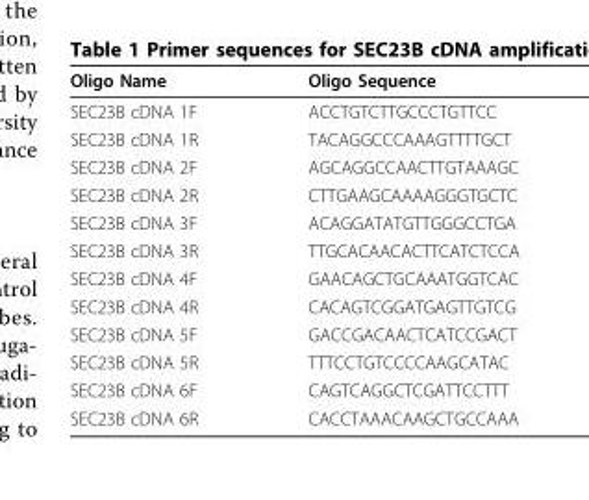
<table><thead><tr><td>Oligo Name</td><td>Oligo Sequence</td></tr></thead><tbody><tr><td>SEC23B cDNA 1F</td><td>ACCTGTCTTGCCCTGTTCC</td></tr><tr><td>SEC23B cDNA 1R</td><td>TACAGGCCCAAAGTTTTGCT</td></tr><tr><td>SEC23B cDNA 2F</td><td>AGCAGGCCAACTTGTAAAGC</td></tr><tr><td>SEC23B cDNA 2R</td><td>CTTGAAGCAAAAGGGTGCTC</td></tr><tr><td>SEC23B cDNA 3F</td><td>ACAGGATATGTTGGGCCTGA</td></tr><tr><td>SEC23B cDNA 3R</td><td>TTGCACAACACTTCATCTCCA</td></tr><tr><td>SEC23B cDNA 4F</td><td>GAACAGCTGCAAATGGTCAC</td></tr><tr><td>SEC23B cDNA 4R</td><td>CACAGTCGGATGAGTTGTCG</td></tr><tr><td>SEC23B cDNA 5F</td><td>GACCGACAACTCATCCGACT</td></tr><tr><td>SEC23B cDNA 5R</td><td>TTTCCTGTCCCCAAGCATAC</td></tr><tr><td>SEC23B cDNA 6F</td><td>CAGTCAGGCTCGATTCCTTT</td></tr><tr><td>SEC23B cDNA 6R</td><td>CACCTAAACAAGCTGCCAAA</td></tr></tbody></table>